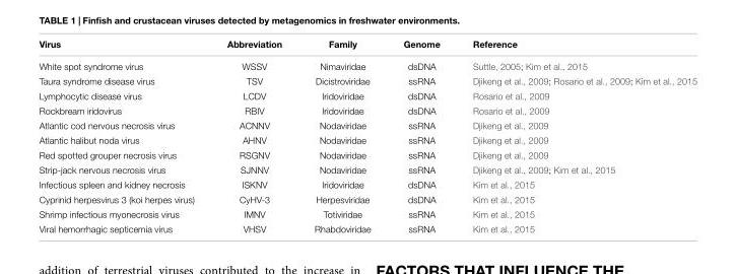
<table><thead><tr><td>Virus</td><td>Abbreviation</td><td>Family</td><td>Genome</td><td>Reference</td></tr></thead><tbody><tr><td>White spot syndrome virus</td><td>WSSV</td><td>Nimaviridae</td><td>dsDNA</td><td>Suttle, 2005; Kim et al., 2015</td></tr><tr><td>Taura syndrome disease virus</td><td>TSV</td><td>Dicistroviridae</td><td>ssRNA</td><td>Djikeng et al., 2009; Rosario et al., 2009; Kim et al., 2015</td></tr><tr><td>Lymphocytic disease virus</td><td>LCDV</td><td>Iridoviridae</td><td>dsDNA</td><td>Rosario et al., 2009</td></tr><tr><td>Rockbream iridovirus</td><td>RBIV</td><td>Iridoviridae</td><td>dsDNA</td><td>Rosario et al., 2009</td></tr><tr><td>Atlantic cod nervous necrosis virus</td><td>ACNNV</td><td>Nodaviridae</td><td>ssRNA</td><td>Djikeng et al., 2009</td></tr><tr><td>Atlantic halibut noda virus</td><td>AHNV</td><td>Nodaviridae</td><td>ssRNA</td><td>Djikeng et al., 2009</td></tr><tr><td>Red spotted grouper necrosis virus</td><td>RSGNV</td><td>Nodaviridae</td><td>ssRNA</td><td>Djikeng et al., 2009</td></tr><tr><td>Strip-jack nervous necrosis virus</td><td>SJNNV</td><td>Nodaviridae</td><td>ssRNA</td><td>Djikeng et al., 2009; Kim et al., 2015</td></tr><tr><td>Infectious spleen and kidney necrosis</td><td>ISKNV</td><td>Iridoviridae</td><td>dsDNA</td><td>Kim et al., 2015</td></tr><tr><td>Cyprinid herpesvirus 3 (koi herpes virus)</td><td>CyHV-3</td><td>Herpesviridae</td><td>dsDNA</td><td>Kim et al., 2015</td></tr><tr><td>Shrimp infectious myonecrosis virus</td><td>IMNV</td><td>Totiviridae</td><td>ssRNA</td><td>Kim et al., 2015</td></tr><tr><td>Viral hemorrhagic septicemia virus</td><td>VHSV</td><td>Rhabdoviridae</td><td>ssRNA</td><td>Kim et al., 2015</td></tr></tbody></table>